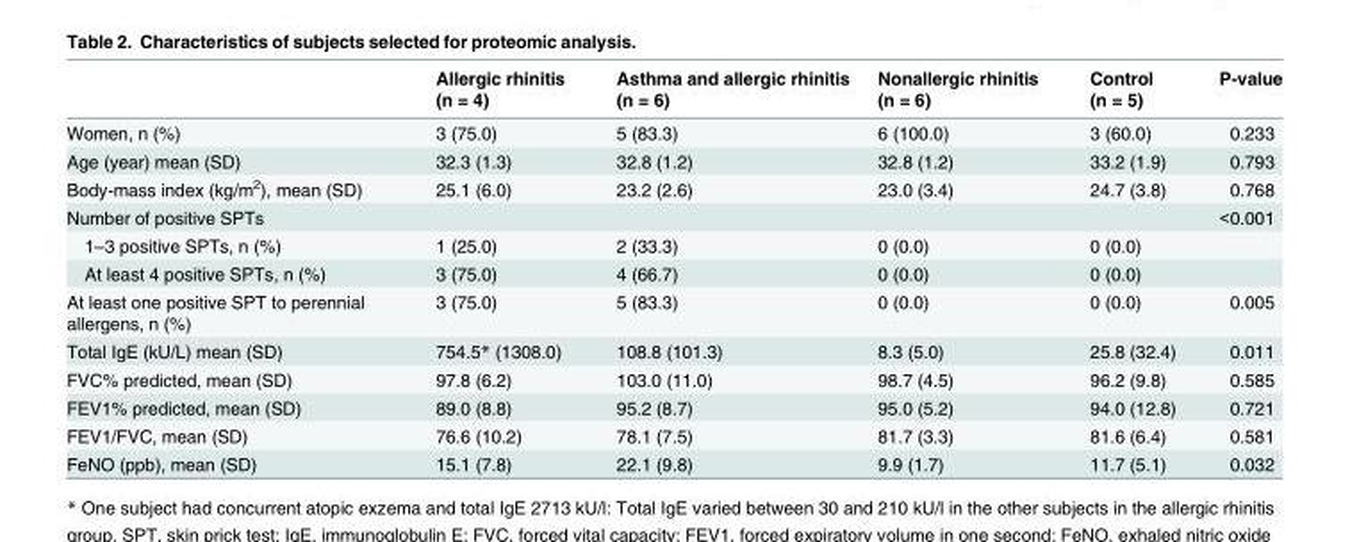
<table><thead><tr><td></td><td>Allergic rhinitis (n = 4)</td><td>Asthma and allergic rhinitis (n = 6)</td><td>Nonallergic rhinitis (n = 6)</td><td>Control (n = 5)</td><td>P-value</td></tr></thead><tbody><tr><td>Women, n (%)</td><td>3 (75.0)</td><td>5 (83.3)</td><td>6 (100.0)</td><td>3 (60.0)</td><td>0.233</td></tr><tr><td>Age (year) mean (SD)</td><td>32.3 (1.3)</td><td>32.8 (1.2)</td><td>32.8 (1.2)</td><td>33.2 (1.9)</td><td>0.793</td></tr><tr><td>Body-mass index (kg/m<sup>2</sup>), mean (SD)</td><td>25.1 (6.0)</td><td>23.2 (2.6)</td><td>23.0 (3.4)</td><td>24.7 (3.8)</td><td>0.768</td></tr><tr><td>Number of positive SPTs</td><td></td><td></td><td></td><td></td><td>&lt;0.001</td></tr><tr><td>1–3 positive SPTs, n (%)</td><td>1 (25.0)</td><td>2 (33.3)</td><td>0 (0.0)</td><td>0 (0.0)</td><td></td></tr><tr><td>At least 4 positive SPTs, n (%)</td><td>3 (75.0)</td><td>4 (66.7)</td><td>0 (0.0)</td><td>0 (0.0)</td><td></td></tr><tr><td>At least one positive SPT to perennial allergens, n (%)</td><td>3 (75.0)</td><td>5 (83.3)</td><td>0 (0.0)</td><td>0 (0.0)</td><td>0.005</td></tr><tr><td>Total IgE (kU/L) mean (SD)</td><td>754.5* (1308.0)</td><td>108.8 (101.3)</td><td>8.3 (5.0)</td><td>25.8 (32.4)</td><td>0.011</td></tr><tr><td>FVC% predicted, mean (SD)</td><td>97.8 (6.2)</td><td>103.0 (11.0)</td><td>98.7 (4.5)</td><td>96.2 (9.8)</td><td>0.585</td></tr><tr><td>FEV1% predicted, mean (SD)</td><td>89.0 (8.8)</td><td>95.2 (8.7)</td><td>95.0 (5.2)</td><td>94.0 (12.8)</td><td>0.721</td></tr><tr><td>FEV1/FVC, mean (SD)</td><td>76.6 (10.2)</td><td>78.1 (7.5)</td><td>81.7 (3.3)</td><td>81.6 (6.4)</td><td>0.581</td></tr><tr><td>FeNO (ppb), mean (SD)</td><td>15.1 (7.8)</td><td>22.1 (9.8)</td><td>9.9 (1.7)</td><td>11.7 (5.1)</td><td>0.032</td></tr></tbody></table>